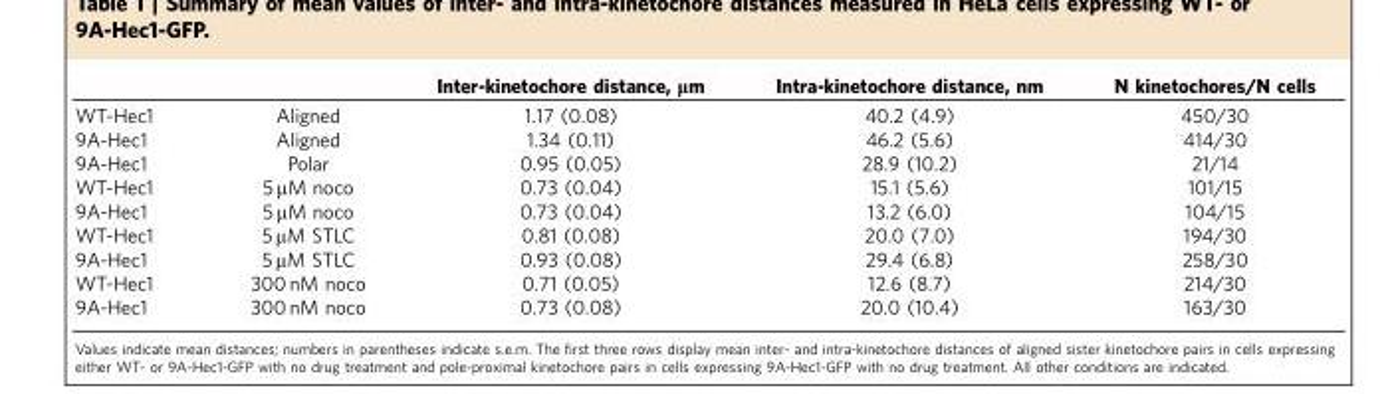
<table><thead><tr><td></td><td></td><td>Inter-kinetochore distance, μm</td><td>Intra-kinetochore distance, nm</td><td>N kinetochores/N cells</td></tr></thead><tbody><tr><td>WT-Hec1</td><td>Aligned</td><td>1.17 (0.08)</td><td>40.2 (4.9)</td><td>450/30</td></tr><tr><td>9A-Hec1</td><td>Aligned</td><td>1.34 (0.11)</td><td>46.2 (5.6)</td><td>414/30</td></tr><tr><td>9A-Hec1</td><td>Polar</td><td>0.95 (0.05)</td><td>28.9 (10.2)</td><td>21/14</td></tr><tr><td>WT-Hec1</td><td>5 μM noco</td><td>0.73 (0.04)</td><td>15.1 (5.6)</td><td>101/15</td></tr><tr><td>9A-Hec1</td><td>5 μM noco</td><td>0.73 (0.04)</td><td>13.2 (6.0)</td><td>104/15</td></tr><tr><td>WT-Hec1</td><td>5 μM STLC</td><td>0.81 (0.08)</td><td>20.0 (7.0)</td><td>194/30</td></tr><tr><td>9A-Hec1</td><td>5 μM STLC</td><td>0.93 (0.08)</td><td>29.4 (6.8)</td><td>258/30</td></tr><tr><td>WT-Hec1</td><td>300 nM noco</td><td>0.71 (0.05)</td><td>12.6 (8.7)</td><td>214/30</td></tr><tr><td>9A-Hec1</td><td>300 nM noco</td><td>0.73 (0.08)</td><td>20.0 (10.4)</td><td>163/30</td></tr></tbody></table>